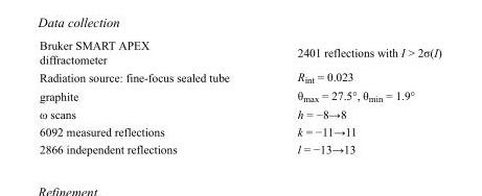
<table><tbody><tr><td>Bruker SMART APEX diffractometer</td><td>2401 reflections with I &gt; 2σ(I)</td></tr><tr><td>Radiation source: fine-focus sealed tube</td><td>R<sub>int</sub> = 0.023</td></tr><tr><td>graphite</td><td>θ<sub>max</sub> = 27.5°, θ<sub>min</sub> = 1.9°</td></tr><tr><td>ω scans</td><td>h = −8→8</td></tr><tr><td>6092 measured reflections</td><td>k = −11→11</td></tr><tr><td>2866 independent reflections</td><td>l = −13→13</td></tr></tbody></table>